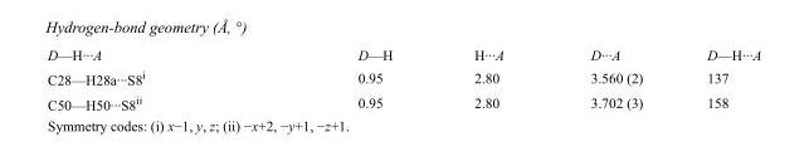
<table><tbody><tr><td>D—H···A</td><td>D—H</td><td>H···A</td><td>D···A</td><td>D—H···A</td></tr><tr><td>C28—H28a···S8<sup>i</sup></td><td>0.95</td><td>2.80</td><td>3.560 (2)</td><td>137</td></tr><tr><td>C50—H50···S8<sup>ii</sup></td><td>0.95</td><td>2.80</td><td>3.702 (3)</td><td>158</td></tr></tbody></table>